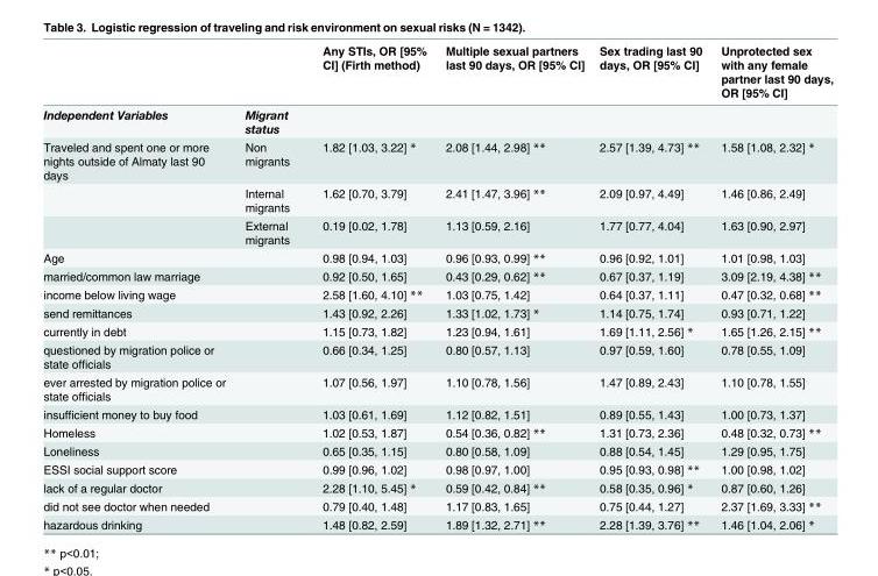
<table><thead><tr><td></td><td></td><td>Any STIs, OR [95% CI] (Firth method)</td><td>Multiple sexual partners last 90 days, OR [95% CI]</td><td>Sex trading last 90 days, OR [95% CI]</td><td>Unprotected sex with any female partner last 90 days, OR [95% CI]</td></tr></thead><tbody><tr><td>Independent Variables</td><td>Migrant status</td><td></td><td></td><td></td><td></td></tr><tr><td rowspan="3">Traveled and spent one or more nights outside of Almaty last 90 days</td><td>Non migrants</td><td>1.82 [1.03, 3.22] *</td><td>2.08 [1.44, 2.98] **</td><td>2.57 [1.39, 4.73] **</td><td>1.58 [1.08, 2.32] *</td></tr><tr><td>Internal migrants</td><td>1.62 [0.70, 3.79]</td><td>2.41 [1.47, 3.96] **</td><td>2.09 [0.97, 4.49]</td><td>1.46 [0.86, 2.49]</td></tr><tr><td>External migrants</td><td>0.19 [0.02, 1.78]</td><td>1.13 [0.59, 2.16]</td><td>1.77 [0.77, 4.04]</td><td>1.63 [0.90, 2.97]</td></tr><tr><td>Age</td><td></td><td>0.98 [0.94, 1.03]</td><td>0.96 [0.93, 0.99] **</td><td>0.96 [0.92, 1.01]</td><td>1.01 [0.98, 1.03]</td></tr><tr><td>married/common law marriage</td><td></td><td>0.92 [0.50, 1.65]</td><td>0.43 [0.29, 0.62] **</td><td>0.67 [0.37, 1.19]</td><td>3.09 [2.19, 4.38] **</td></tr><tr><td>income below living wage</td><td></td><td>2.58 [1.60, 4.10] **</td><td>1.03 [0.75, 1.42]</td><td>0.64 [0.37, 1.11]</td><td>0.47 [0.32, 0.68] **</td></tr><tr><td>send remittances</td><td></td><td>1.43 [0.92, 2.26]</td><td>1.33 [1.02, 1.73] *</td><td>1.14 [0.75, 1.74]</td><td>0.93 [0.71, 1.22]</td></tr><tr><td>currently in debt</td><td></td><td>1.15 [0.73, 1.82]</td><td>1.23 [0.94, 1.61]</td><td>1.69 [1.11, 2.56] *</td><td>1.65 [1.26, 2.15] **</td></tr><tr><td>questioned by migration police or state officials</td><td></td><td>0.66 [0.34, 1.25]</td><td>0.80 [0.57, 1.13]</td><td>0.97 [0.59, 1.60]</td><td>0.78 [0.55, 1.09]</td></tr><tr><td>ever arrested by migration police or state officials</td><td></td><td>1.07 [0.56, 1.97]</td><td>1.10 [0.78, 1.56]</td><td>1.47 [0.89, 2.43]</td><td>1.10 [0.78, 1.55]</td></tr><tr><td>insufficient money to buy food</td><td></td><td>1.03 [0.61, 1.69]</td><td>1.12 [0.82, 1.51]</td><td>0.89 [0.55, 1.43]</td><td>1.00 [0.73, 1.37]</td></tr><tr><td>Homeless</td><td></td><td>1.02 [0.53, 1.87]</td><td>0.54 [0.36, 0.82] **</td><td>1.31 [0.73, 2.36]</td><td>0.48 [0.32, 0.73] **</td></tr><tr><td>Loneliness</td><td></td><td>0.65 [0.35, 1.15]</td><td>0.80 [0.58, 1.09]</td><td>0.88 [0.54, 1.45]</td><td>1.29 [0.95, 1.75]</td></tr><tr><td>ESSI social support score</td><td></td><td>0.99 [0.96, 1.02]</td><td>0.98 [0.97, 1.00]</td><td>0.95 [0.93, 0.98] **</td><td>1.00 [0.98, 1.02]</td></tr><tr><td>lack of a regular doctor</td><td></td><td>2.28 [1.10, 5.45] *</td><td>0.59 [0.42, 0.84] **</td><td>0.58 [0.35, 0.96] *</td><td>0.87 [0.60, 1.26]</td></tr><tr><td>did not see doctor when needed</td><td></td><td>0.79 [0.40, 1.48]</td><td>1.17 [0.83, 1.65]</td><td>0.75 [0.44, 1.27]</td><td>2.37 [1.69, 3.33] **</td></tr><tr><td>hazardous drinking</td><td></td><td>1.48 [0.82, 2.59]</td><td>1.89 [1.32, 2.71] **</td><td>2.28 [1.39, 3.76] **</td><td>1.46 [1.04, 2.06] *</td></tr></tbody></table>